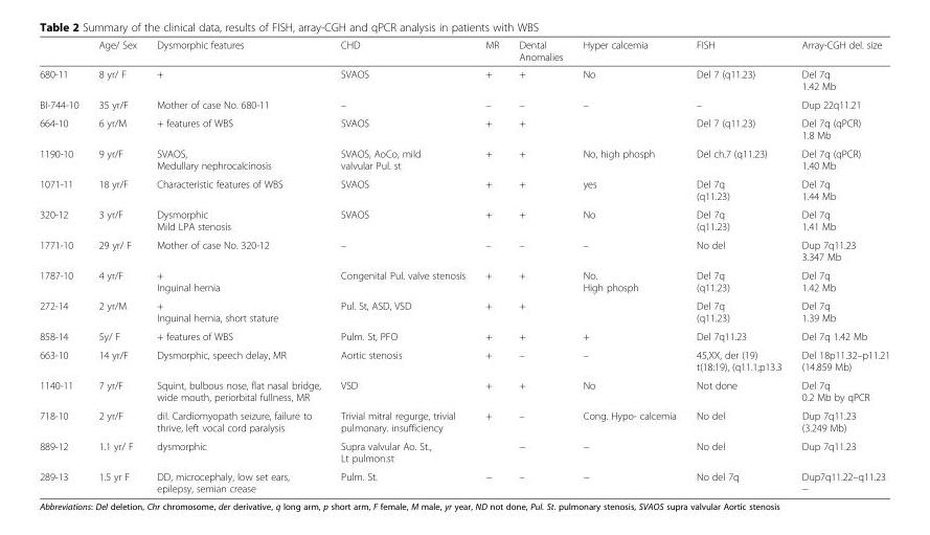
<table><thead><tr><td></td><td>Age/ Sex</td><td>Dysmorphic features</td><td>CHD</td><td>MR</td><td>Dental Anomalies</td><td>Hyper calcemia</td><td>FISH</td><td>Array-CGH del. size</td></tr></thead><tbody><tr><td>680-11</td><td>8 yr/ F</td><td>+</td><td>SVAOS</td><td>+</td><td>+</td><td>No</td><td>Del 7 (q11.23)</td><td>Del 7q 1.42 Mb</td></tr><tr><td>Bl-744-10</td><td>35 yr/F</td><td>Mother of case No. 680-11</td><td>–</td><td>–</td><td>–</td><td>–</td><td>–</td><td>Dup 22q11.21</td></tr><tr><td>664-10</td><td>6 yr/M</td><td>+ features of WBS</td><td>SVAOS</td><td>+</td><td>+</td><td></td><td>Del 7 (q11.23)</td><td>Del 7q (qPCR) 1.8 Mb</td></tr><tr><td>1190-10</td><td>9 yr/F</td><td>SVAOS, Medullary nephrocalcinosis</td><td>SVAOS, AoCo, mild valvular Pul. st</td><td>+</td><td>+</td><td>No, high phosph</td><td>Del ch.7 (q11.23)</td><td>Del 7q (qPCR) 1.40 Mb</td></tr><tr><td>1071-11</td><td>18 yr/F</td><td>Characteristic features of WBS</td><td>SVAOS</td><td>+</td><td>+</td><td>yes</td><td>Del 7q (q11.23)</td><td>Del 7q 1.44 Mb</td></tr><tr><td>320-12</td><td>3 yr/F</td><td>Dysmorphic Mild LPA stenosis</td><td>SVAOS</td><td>+</td><td>+</td><td>No</td><td>Del 7q (q11.23)</td><td>Del 7q 1.41 Mb</td></tr><tr><td>1771-10</td><td>29 yr/ F</td><td>Mother of case No. 320-12</td><td>–</td><td>–</td><td>–</td><td>–</td><td>No del</td><td>Dup 7q11.23 3.347 Mb</td></tr><tr><td>1787-10</td><td>4 yr/F</td><td>+ Inguinal hernia</td><td>Congenital Pul. valve stenosis</td><td>+</td><td>+</td><td>No. High phosph</td><td>Del 7q (q11.23)</td><td>Del 7q 1.42 Mb</td></tr><tr><td>272-14</td><td>2 yr/M</td><td>+ Inguinal hernia, short stature</td><td>Pul. St, ASD, VSD</td><td>+</td><td>+</td><td></td><td>Del 7q (q11.23)</td><td>Del 7q 1.39 Mb</td></tr><tr><td>858-14</td><td>5y/ F</td><td>+ features of WBS</td><td>Pulm. St, PFO</td><td>+</td><td>+</td><td>+</td><td>Del 7q11.23</td><td>Del 7q 1.42 Mb</td></tr><tr><td>663-10</td><td>14 yr/F</td><td>Dysmorphic, speech delay, MR</td><td>Aortic stenosis</td><td>+</td><td>–</td><td>–</td><td>45,XX, der (19) t(18:19), (q11.1;p13.3</td><td>Del 18p11.32–p11.21 (14.859 Mb)</td></tr><tr><td>1140-11</td><td>7 yr/F</td><td>Squint, bulbous nose, flat nasal bridge, wide mouth, periorbital fullness, MR</td><td>VSD</td><td>+</td><td>+</td><td>No</td><td>Not done</td><td>Del 7q 0.2 Mb by qPCR</td></tr><tr><td>718-10</td><td>2 yr/F</td><td>dil. Cardiomyopath seizure, failure to thrive, left vocal cord paralysis</td><td>Trivial mitral regurge, trivial pulmonary. insufficiency</td><td>+</td><td>–</td><td>Cong. Hypo- calcemia</td><td>No del</td><td>Dup 7q11.23 (3.249 Mb)</td></tr><tr><td>889-12</td><td>1.1 yr/ F</td><td>dysmorphic</td><td>Supra valvular Ao. St., Lt pulmon.st</td><td></td><td>−</td><td>−</td><td>No del</td><td>Dup 7q11.23</td></tr><tr><td>289-13</td><td>1.5 yr F</td><td>DD, microcephaly, low set ears, epilepsy, semian crease</td><td>Pulm. St.</td><td>−</td><td>–</td><td>−</td><td>No del 7q</td><td>Dup7q11.22–q11.23 −</td></tr></tbody></table>